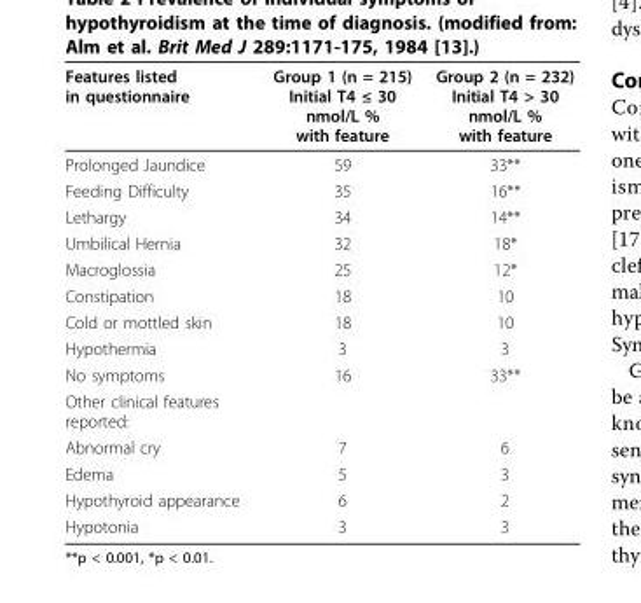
<table><thead><tr><td>Features listed in questionnaire</td><td>Group 1 (n = 215) Initial T4 ≤ 30 nmol/L % with feature</td><td>Group 2 (n = 232) Initial T4 &gt; 30 nmol/L % with feature</td></tr></thead><tbody><tr><td>Prolonged Jaundice</td><td>59</td><td>33**</td></tr><tr><td>Feeding Difficulty</td><td>35</td><td>16**</td></tr><tr><td>Lethargy</td><td>34</td><td>14**</td></tr><tr><td>Umbilical Hernia</td><td>32</td><td>18*</td></tr><tr><td>Macroglossia</td><td>25</td><td>12*</td></tr><tr><td>Constipation</td><td>18</td><td>10</td></tr><tr><td>Cold or mottled skin</td><td>18</td><td>10</td></tr><tr><td>Hypothermia</td><td>3</td><td>3</td></tr><tr><td>No symptoms</td><td>16</td><td>33**</td></tr><tr><td colspan="3">Other clinical features reported:</td></tr><tr><td>Abnormal cry</td><td>7</td><td>6</td></tr><tr><td>Edema</td><td>5</td><td>3</td></tr><tr><td>Hypothyroid appearance</td><td>6</td><td>2</td></tr><tr><td>Hypotonia</td><td>3</td><td>3</td></tr></tbody></table>